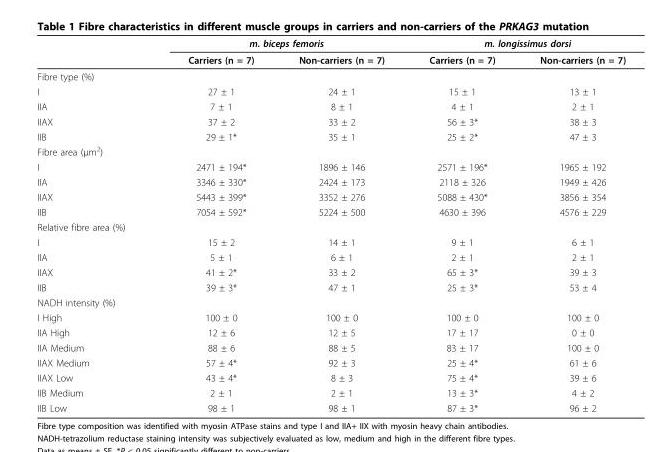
<table><thead><tr><td rowspan="2"></td><td colspan="2">m. biceps femoris</td><td colspan="2">m. longissimus dorsi</td></tr><tr><td>Carriers (n = 7)</td><td>Non-carriers (n = 7)</td><td>Carriers (n = 7)</td><td>Non-carriers (n = 7)</td></tr></thead><tbody><tr><td colspan="5">Fibre type (%)</td></tr><tr><td>I</td><td>27 ± 1</td><td>24 ± 1</td><td>15 ± 1</td><td>13 ± 1</td></tr><tr><td>IIA</td><td>7 ± 1</td><td>8 ± 1</td><td>4 ± 1</td><td>2 ± 1</td></tr><tr><td>IIAX</td><td>37 ± 2</td><td>33 ± 2</td><td>56 ± 3*</td><td>38 ± 3</td></tr><tr><td>IIB</td><td>29 ± 1*</td><td>35 ± 1</td><td>25 ± 2*</td><td>47 ± 3</td></tr><tr><td colspan="5">Fibre area (μm<sup>2</sup>)</td></tr><tr><td>I</td><td>2471 ± 194*</td><td>1896 ± 146</td><td>2571 ± 196*</td><td>1965 ± 192</td></tr><tr><td>IIA</td><td>3346 ± 330*</td><td>2424 ± 173</td><td>2118 ± 326</td><td>1949 ± 426</td></tr><tr><td>IIAX</td><td>5443 ± 399*</td><td>3352 ± 276</td><td>5088 ± 430*</td><td>3856 ± 354</td></tr><tr><td>IIB</td><td>7054 ± 592*</td><td>5224 ± 500</td><td>4630 ± 396</td><td>4576 ± 229</td></tr><tr><td colspan="5">Relative fibre area (%)</td></tr><tr><td>I</td><td>15 ± 2</td><td>14 ± 1</td><td>9 ± 1</td><td>6 ± 1</td></tr><tr><td>IIA</td><td>5 ± 1</td><td>6 ± 1</td><td>2 ± 1</td><td>2 ± 1</td></tr><tr><td>IIAX</td><td>41 ± 2*</td><td>33 ± 2</td><td>65 ± 3*</td><td>39 ± 3</td></tr><tr><td>IIB</td><td>39 ± 3*</td><td>47 ± 1</td><td>25 ± 3*</td><td>53 ± 4</td></tr><tr><td colspan="5">NADH intensity (%)</td></tr><tr><td>I High</td><td>100 ± 0</td><td>100 ± 0</td><td>100 ± 0</td><td>100 ± 0</td></tr><tr><td>IIA High</td><td>12 ± 6</td><td>12 ± 5</td><td>17 ± 17</td><td>0 ± 0</td></tr><tr><td>IIA Medium</td><td>88 ± 6</td><td>88 ± 5</td><td>83 ± 17</td><td>100 ± 0</td></tr><tr><td>IIAX Medium</td><td>57 ± 4*</td><td>92 ± 3</td><td>25 ± 4*</td><td>61 ± 6</td></tr><tr><td>IIAX Low</td><td>43 ± 4*</td><td>8 ± 3</td><td>75 ± 4*</td><td>39 ± 6</td></tr><tr><td>IIB Medium</td><td>2 ± 1</td><td>2 ± 1</td><td>13 ± 3*</td><td>4 ± 2</td></tr><tr><td>IIB Low</td><td>98 ± 1</td><td>98 ± 1</td><td>87 ± 3*</td><td>96 ± 2</td></tr></tbody></table>